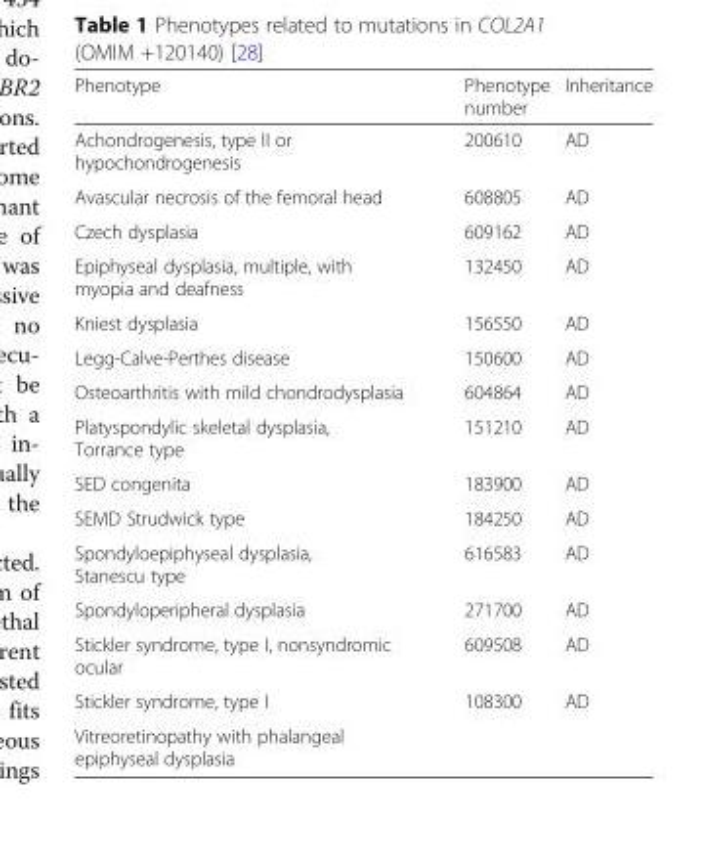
<table><thead><tr><td>Phenotype</td><td>Phenotype number</td><td>Inheritance</td></tr></thead><tbody><tr><td>Achondrogenesis, type II or hypochondrogenesis</td><td>200610</td><td>AD</td></tr><tr><td>Avascular necrosis of the femoral head</td><td>608805</td><td>AD</td></tr><tr><td>Czech dysplasia</td><td>609162</td><td>AD</td></tr><tr><td>Epiphyseal dysplasia, multiple, with myopia and deafness</td><td>132450</td><td>AD</td></tr><tr><td>Kniest dysplasia</td><td>156550</td><td>AD</td></tr><tr><td>Legg-Calve-Perthes disease</td><td>150600</td><td>AD</td></tr><tr><td>Osteoarthritis with mild chondrodysplasia</td><td>604864</td><td>AD</td></tr><tr><td>Platyspondylic skeletal dysplasia, Torrance type</td><td>151210</td><td>AD</td></tr><tr><td>SED congenita</td><td>183900</td><td>AD</td></tr><tr><td>SEMD Strudwick type</td><td>184250</td><td>AD</td></tr><tr><td>Spondyloepiphyseal dysplasia, Stanescu type</td><td>616583</td><td>AD</td></tr><tr><td>Spondyloperipheral dysplasia</td><td>271700</td><td>AD</td></tr><tr><td>Stickler syndrome, type I, nonsyndromic ocular</td><td>609508</td><td>AD</td></tr><tr><td>Stickler syndrome, type I</td><td>108300</td><td>AD</td></tr><tr><td>Vitreoretinopathy with phalangeal epiphyseal dysplasia</td><td></td><td></td></tr></tbody></table>